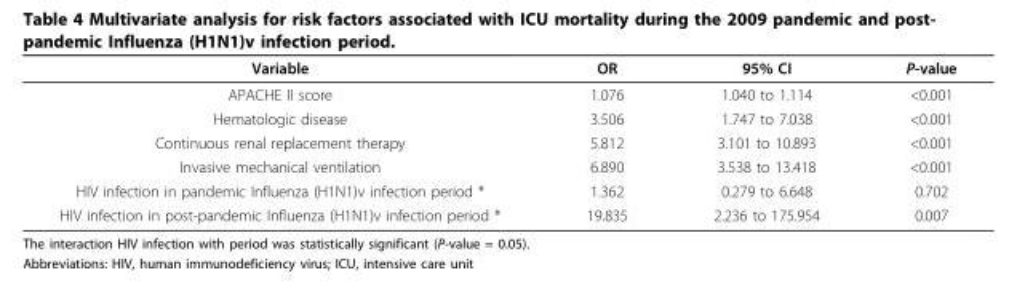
<table><thead><tr><td>Variable</td><td>OR</td><td>95% CI</td><td>P-value</td></tr></thead><tbody><tr><td>APACHE II score</td><td>1.076</td><td>1.040 to 1.114</td><td>&lt;0.001</td></tr><tr><td>Hematologic disease</td><td>3.506</td><td>1.747 to 7.038</td><td>&lt;0.001</td></tr><tr><td>Continuous renal replacement therapy</td><td>5.812</td><td>3.101 to 10.893</td><td>&lt;0.001</td></tr><tr><td>Invasive mechanical ventilation</td><td>6.890</td><td>3.538 to 13.418</td><td>&lt;0.001</td></tr><tr><td>HIV infection in pandemic Influenza (H1N1)v infection period *</td><td>1.362</td><td>0.279 to 6.648</td><td>0.702</td></tr><tr><td>HIV infection in post-pandemic Influenza (H1N1)v infection period *</td><td>19.835</td><td>2.236 to 175.954</td><td>0.007</td></tr></tbody></table>